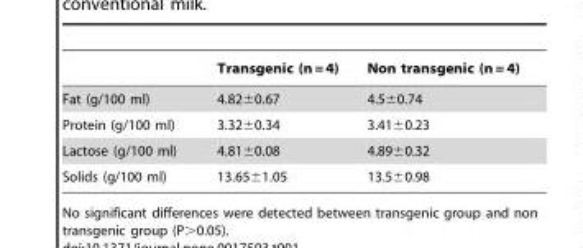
<table><thead><tr><td></td><td>Transgenic (n = 4)</td><td>Non transgenic (n = 4)</td></tr></thead><tbody><tr><td>Fat (g/100 ml)</td><td>4.82±0.67</td><td>4.5±0.74</td></tr><tr><td>Protein (g/100 ml)</td><td>3.32±0.34</td><td>3.41±0.23</td></tr><tr><td>Lactose (g/100 ml)</td><td>4.81±0.08</td><td>4.89±0.32</td></tr><tr><td>Solids (g/100 ml)</td><td>13.65±1.05</td><td>13.5±0.98</td></tr></tbody></table>